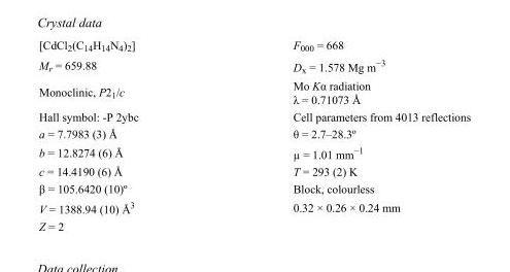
<table><tbody><tr><td>[CdCl<sub>2</sub>(C<sub>14</sub>H<sub>14</sub>N<sub>4</sub>)<sub>2</sub>]</td><td>F<sub>000</sub> = 668</td></tr><tr><td>M<sub>r</sub> = 659.88</td><td>D<sub>x</sub> = 1.578 Mg m<sup>−3</sup></td></tr><tr><td>Monoclinic, P2<sub>1</sub>/c</td><td>Mo Kα radiation λ = 0.71073 Å</td></tr><tr><td>Hall symbol: -P 2ybc</td><td>Cell parameters from 4013 reflections</td></tr><tr><td>a = 7.7983 (3) Å</td><td>θ = 2.7–28.3º</td></tr><tr><td>b = 12.8274 (6) Å</td><td>µ = 1.01 mm<sup>−1</sup></td></tr><tr><td>c = 14.4190 (6) Å</td><td>T = 293 (2) K</td></tr><tr><td>β = 105.6420 (10)º</td><td>Block, colourless</td></tr><tr><td>V = 1388.94 (10) Å<sup>3</sup></td><td>0.32 × 0.26 × 0.24 mm</td></tr><tr><td>Z = 2</td><td></td></tr></tbody></table>